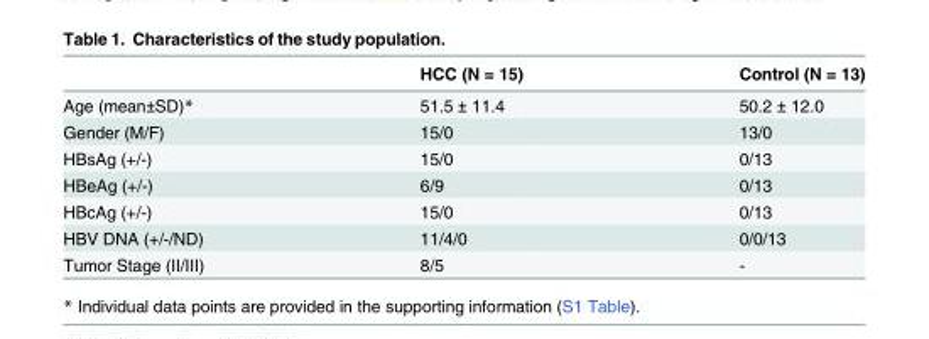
<table><thead><tr><td></td><td>HCC (N = 15)</td><td>Control (N = 13)</td></tr></thead><tbody><tr><td>Age (mean±SD)*</td><td>51.5 ± 11.4</td><td>50.2 ± 12.0</td></tr><tr><td>Gender (M/F)</td><td>15/0</td><td>13/0</td></tr><tr><td>HBsAg (+/-)</td><td>15/0</td><td>0/13</td></tr><tr><td>HBeAg (+/-)</td><td>6/9</td><td>0/13</td></tr><tr><td>HBcAg (+/-)</td><td>15/0</td><td>0/13</td></tr><tr><td>HBV DNA (+/-/ND)</td><td>11/4/0</td><td>0/0/13</td></tr><tr><td>Tumor Stage (II/III)</td><td>8/5</td><td>-</td></tr></tbody></table>